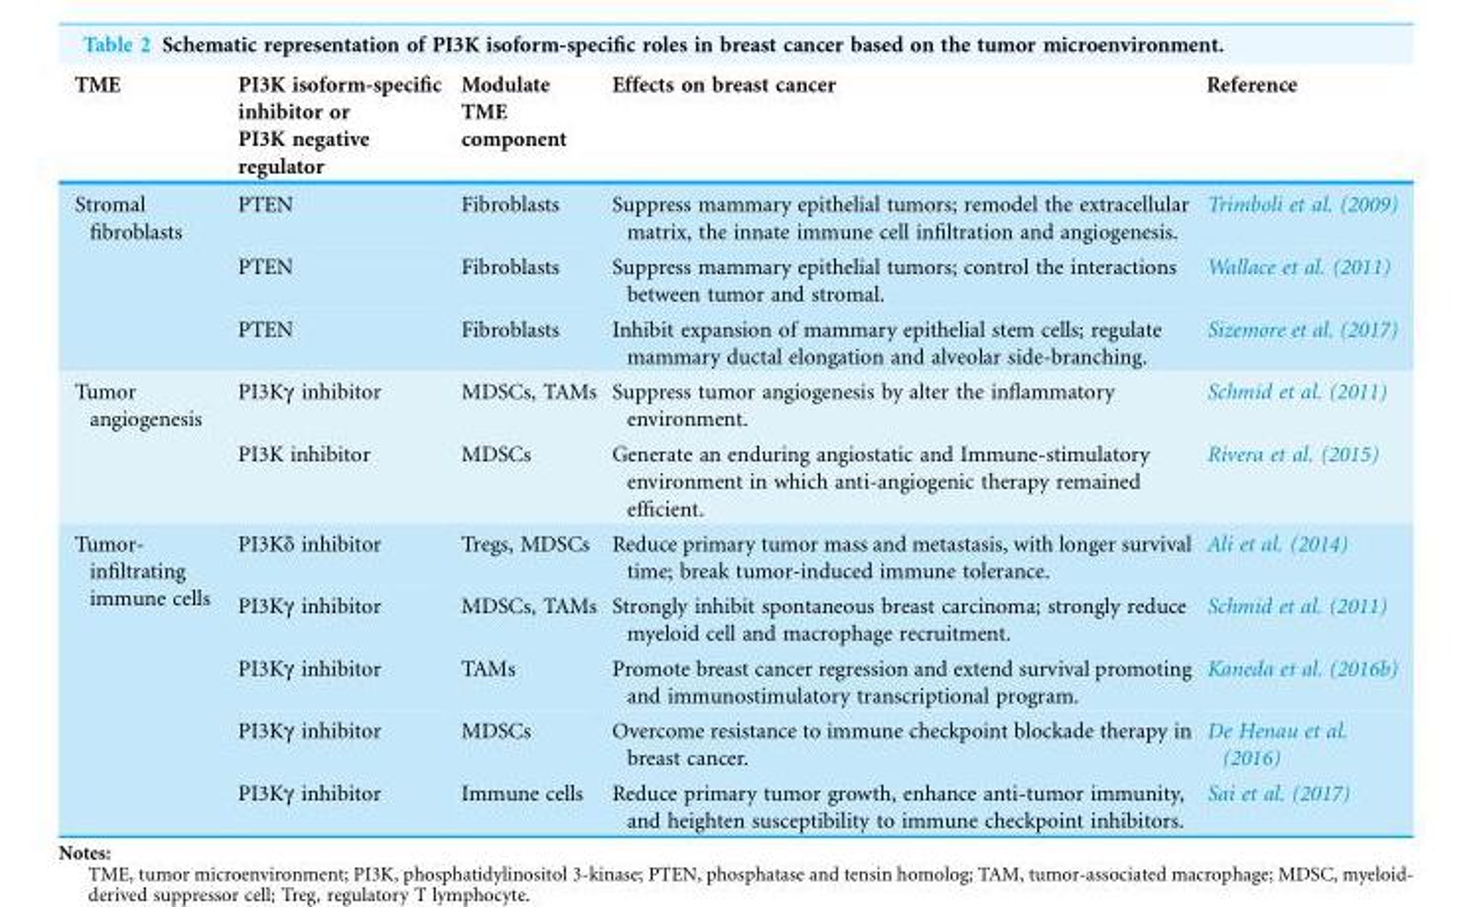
<table><thead><tr><td>TME</td><td>PI3K isoform-specific inhibitor or PI3K negative regulator</td><td>Modulate TME component</td><td>Effects on breast cancer</td><td>Reference</td></tr></thead><tbody><tr><td rowspan="3">Stromal fibroblasts</td><td>PTEN</td><td>Fibroblasts</td><td>Suppress mammary epithelial tumors; remodel the extracellular matrix, the innate immune cell infiltration and angiogenesis.</td><td>Trimboli et al. (2009)</td></tr><tr><td>PTEN</td><td>Fibroblasts</td><td>Suppress mammary epithelial tumors; control the interactions between tumor and stromal.</td><td>Wallace et al. (2011)</td></tr><tr><td>PTEN</td><td>Fibroblasts</td><td>Inhibit expansion of mammary epithelial stem cells; regulate mammary ductal elongation and alveolar side-branching.</td><td>Sizemore et al. (2017)</td></tr><tr><td rowspan="2">Tumor angiogenesis</td><td>PI3Kγ inhibitor</td><td>MDSCs, TAMs</td><td>Suppress tumor angiogenesis by alter the inflammatory environment.</td><td>Schmid et al. (2011)</td></tr><tr><td>PI3K inhibitor</td><td>MDSCs</td><td>Generate an enduring angiostatic and Immune-stimulatory environment in which anti-angiogenic therapy remained efficient.</td><td>Rivera et al. (2015)</td></tr><tr><td rowspan="5">Tumor- infiltrating immune cells</td><td>PI3Kδ inhibitor</td><td>Tregs, MDSCs</td><td>Reduce primary tumor mass and metastasis, with longer survival time; break tumor-induced immune tolerance.</td><td>Ali et al. (2014)</td></tr><tr><td>PI3Kγ inhibitor</td><td>MDSCs, TAMs</td><td>Strongly inhibit spontaneous breast carcinoma; strongly reduce myeloid cell and macrophage recruitment.</td><td>Schmid et al. (2011)</td></tr><tr><td>PI3Kγ inhibitor</td><td>TAMs</td><td>Promote breast cancer regression and extend survival promoting and immunostimulatory transcriptional program.</td><td>Kaneda et al. (2016b)</td></tr><tr><td>PI3Kγ inhibitor</td><td>MDSCs</td><td>Overcome resistance to immune checkpoint blockade therapy in breast cancer.</td><td>De Henau et al. (2016)</td></tr><tr><td>PI3Kγ inhibitor</td><td>Immune cells</td><td>Reduce primary tumor growth, enhance anti-tumor immunity, and heighten susceptibility to immune checkpoint inhibitors.</td><td>Sai et al. (2017)</td></tr></tbody></table>